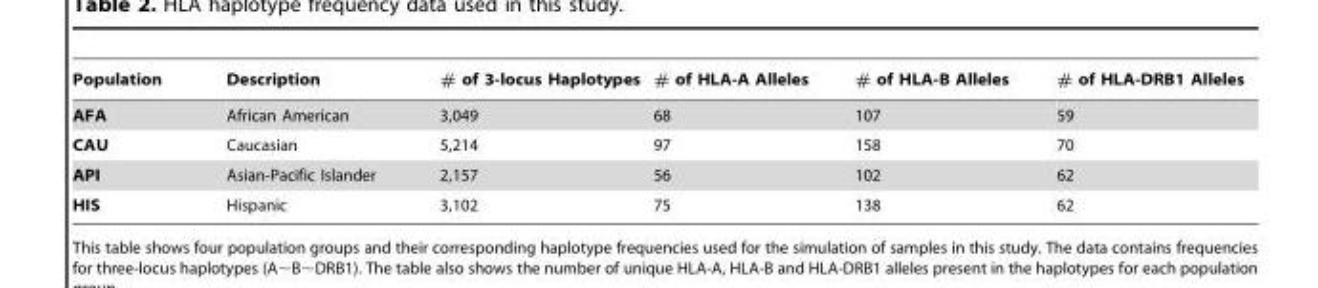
<table><thead><tr><td>Population</td><td>Description</td><td># of 3-locus Haplotypes</td><td># of HLA-A Alleles</td><td># of HLA-B Alleles</td><td># of HLA-DRB1 Alleles</td></tr></thead><tbody><tr><td>AFA</td><td>African American</td><td>3,049</td><td>68</td><td>107</td><td>59</td></tr><tr><td>CAU</td><td>Caucasian</td><td>5,214</td><td>97</td><td>158</td><td>70</td></tr><tr><td>API</td><td>Asian-Pacific Islander</td><td>2,157</td><td>56</td><td>102</td><td>62</td></tr><tr><td>HIS</td><td>Hispanic</td><td>3,102</td><td>75</td><td>138</td><td>62</td></tr></tbody></table>